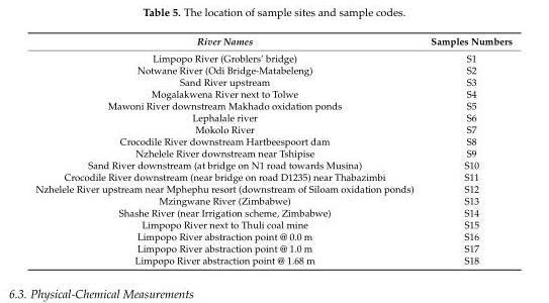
<table><thead><tr><td>River Names</td><td>Samples Numbers</td></tr></thead><tbody><tr><td>Limpopo River (Groblers’ bridge)</td><td>S1</td></tr><tr><td>Notwane River (Odi Bridge-Matabeleng)</td><td>S2</td></tr><tr><td>Sand River upstream</td><td>S3</td></tr><tr><td>Mogalakwena River next to Tolwe</td><td>S4</td></tr><tr><td>Mawoni River downstream Makhado oxidation ponds</td><td>S5</td></tr><tr><td>Lephalale river</td><td>S6</td></tr><tr><td>Mokolo River</td><td>S7</td></tr><tr><td>Crocodile River downstream Hartbeespoort dam</td><td>S8</td></tr><tr><td>Nzhelele River downstream near Tshipise</td><td>S9</td></tr><tr><td>Sand River downstream (at bridge on N1 road towards Musina)</td><td>S10</td></tr><tr><td>Crocodile River downstream (near bridge on road D1235) near Thabazimbi</td><td>S11</td></tr><tr><td>Nzhelele River upstream near Mphephu resort (downstream of Siloam oxidation ponds)</td><td>S12</td></tr><tr><td>Mzingwane River (Zimbabwe)</td><td>S13</td></tr><tr><td>Shashe River (near Irrigation scheme, Zimbabwe)</td><td>S14</td></tr><tr><td>Limpopo River next to Thuli coal mine</td><td>S15</td></tr><tr><td>Limpopo River abstraction point @ 0.0 m</td><td>S16</td></tr><tr><td>Limpopo River abstraction point @ 1.0 m</td><td>S17</td></tr><tr><td>Limpopo River abstraction point @ 1.68 m</td><td>S18</td></tr></tbody></table>